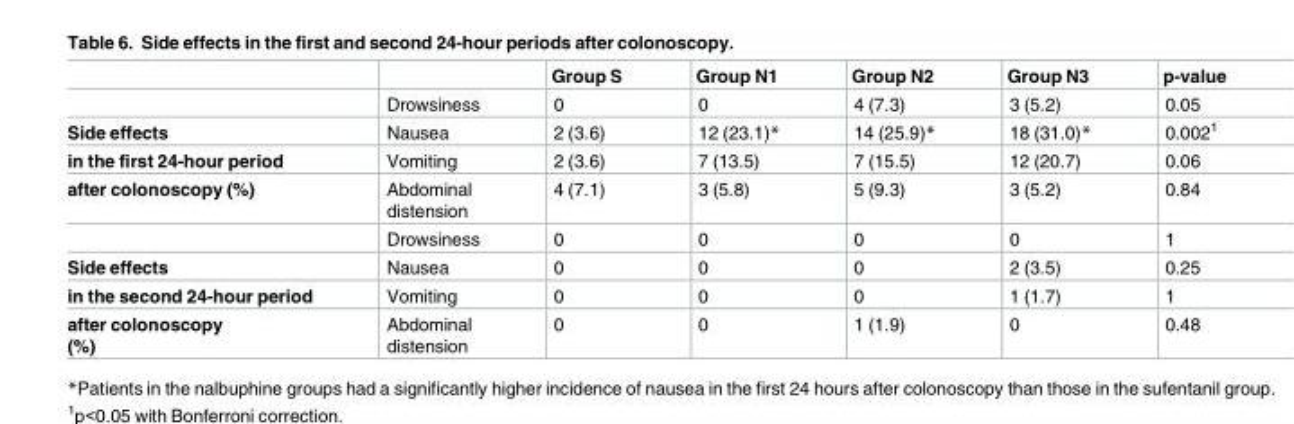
<table><thead><tr><td></td><td></td><td>Group S</td><td>Group N1</td><td>Group N2</td><td>Group N3</td><td>p-value</td></tr></thead><tbody><tr><td></td><td>Drowsiness</td><td>0</td><td>0</td><td>4 (7.3)</td><td>3 (5.2)</td><td>0.05</td></tr><tr><td>Side effects</td><td>Nausea</td><td>2 (3.6)</td><td>12 (23.1)*</td><td>14 (25.9)*</td><td>18 (31.0)*</td><td>0.002<sup>1</sup></td></tr><tr><td>in the first 24-hour period</td><td>Vomiting</td><td>2 (3.6)</td><td>7 (13.5)</td><td>7 (15.5)</td><td>12 (20.7)</td><td>0.06</td></tr><tr><td rowspan="2">after colonoscopy (%)</td><td>Abdominal distension</td><td>4 (7.1)</td><td>3 (5.8)</td><td>5 (9.3)</td><td>3 (5.2)</td><td>0.84</td></tr><tr><td>Drowsiness</td><td>0</td><td>0</td><td>0</td><td>0</td><td>1</td></tr><tr><td>Side effects</td><td>Nausea</td><td>0</td><td>0</td><td>0</td><td>2 (3.5)</td><td>0.25</td></tr><tr><td>in the second 24-hour period</td><td>Vomiting</td><td>0</td><td>0</td><td>0</td><td>1 (1.7)</td><td>1</td></tr><tr><td>after colonoscopy (%)</td><td>Abdominal distension</td><td>0</td><td>0</td><td>1 (1.9)</td><td>0</td><td>0.48</td></tr></tbody></table>